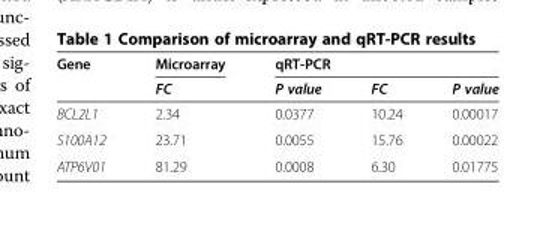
<table><thead><tr><td rowspan="2">Gene</td><td rowspan="2">Microarray FC</td><td colspan="3">qRT-PCR</td></tr><tr><td>P value</td><td>FC</td><td>P value</td></tr></thead><tbody><tr><td>BCL2L1</td><td>2.34</td><td>0.0377</td><td>10.24</td><td>0.00017</td></tr><tr><td>S100A12</td><td>23.71</td><td>0.0055</td><td>15.76</td><td>0.00022</td></tr><tr><td>ATP6V01</td><td>81.29</td><td>0.0008</td><td>6.30</td><td>0.01775</td></tr></tbody></table>